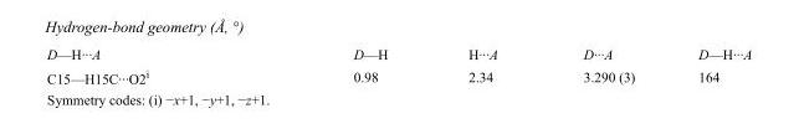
<table><tbody><tr><td>D—H···A</td><td>D—H</td><td>H···A</td><td>D···A</td><td>D—H···A</td></tr><tr><td>C15—H15C···O2<sup>i</sup></td><td>0.98</td><td>2.34</td><td>3.290 (3)</td><td>164</td></tr></tbody></table>